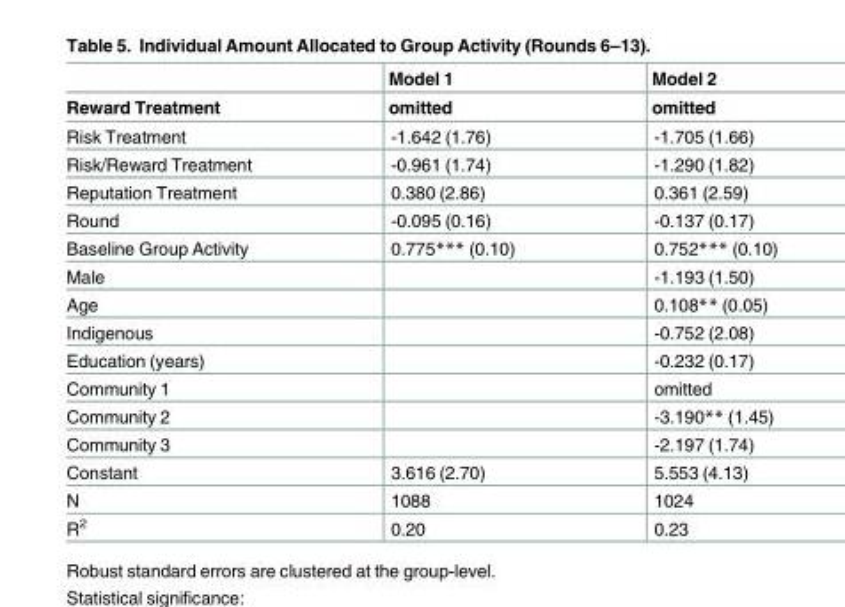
<table><thead><tr><td rowspan="2">Reward Treatment</td><td rowspan="2">Model 1 omitted</td><td rowspan="2">Model 2 omitted</td></tr><tr></tr></thead><tbody><tr><td>Risk Treatment</td><td>-1.642 (1.76)</td><td>-1.705 (1.66)</td></tr><tr><td>Risk/Reward Treatment</td><td>-0.961 (1.74)</td><td>-1.290 (1.82)</td></tr><tr><td>Reputation Treatment</td><td>0.380 (2.86)</td><td>0.361 (2.59)</td></tr><tr><td>Round</td><td>-0.095 (0.16)</td><td>-0.137 (0.17)</td></tr><tr><td>Baseline Group Activity</td><td>0.775*** (0.10)</td><td>0.752*** (0.10)</td></tr><tr><td>Male</td><td></td><td>-1.193 (1.50)</td></tr><tr><td>Age</td><td></td><td>0.108** (0.05)</td></tr><tr><td>Indigenous</td><td></td><td>-0.752 (2.08)</td></tr><tr><td>Education (years)</td><td></td><td>-0.232 (0.17)</td></tr><tr><td>Community 1</td><td></td><td>omitted</td></tr><tr><td>Community 2</td><td></td><td>-3.190** (1.45)</td></tr><tr><td>Community 3</td><td></td><td>-2.197 (1.74)</td></tr><tr><td>Constant</td><td>3.616 (2.70)</td><td>5.553 (4.13)</td></tr><tr><td>N</td><td>1088</td><td>1024</td></tr><tr><td>R<sup>2</sup></td><td>0.20</td><td>0.23</td></tr></tbody></table>